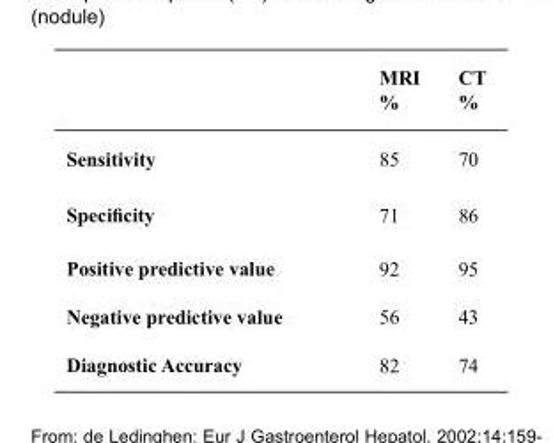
<table><thead><tr><td></td><td>MRI %</td><td>CT %</td></tr></thead><tbody><tr><td>Sensitivity</td><td>85</td><td>70</td></tr><tr><td>Specificity</td><td>71</td><td>86</td></tr><tr><td>Positive predictive value</td><td>92</td><td>95</td></tr><tr><td>Negative predictive value</td><td>56</td><td>43</td></tr><tr><td>Diagnostic Accuracy</td><td>82</td><td>74</td></tr></tbody></table>